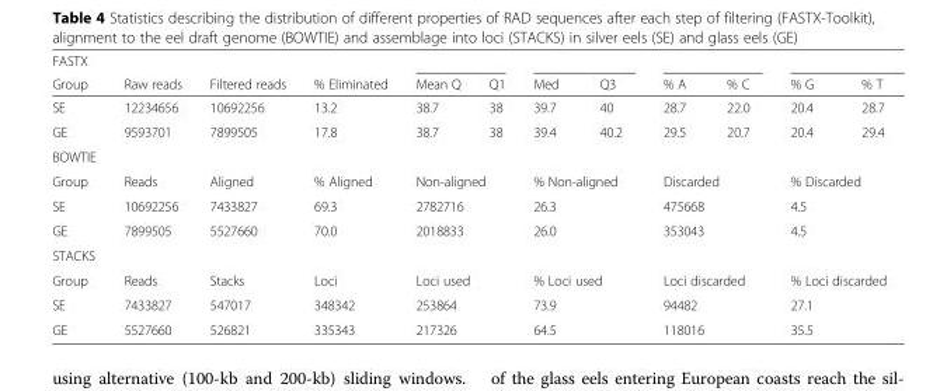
<table><thead><tr><td rowspan="2">FASTX Group</td><td rowspan="2">Raw reads</td><td rowspan="2">Filtered reads</td><td rowspan="2">% Eliminated</td><td rowspan="2">Mean Q</td><td rowspan="2">Q1</td><td rowspan="2">Med</td><td rowspan="2">Q3</td><td rowspan="2">% A</td><td rowspan="2">% C</td><td rowspan="2">% G</td><td rowspan="2">% T</td></tr><tr></tr></thead><tbody><tr><td>SE</td><td>12234656</td><td>10692256</td><td>13.2</td><td>38.7</td><td>38</td><td>39.7</td><td>40</td><td>28.7</td><td>22.0</td><td>20.4</td><td>28.7</td></tr><tr><td>GE</td><td>9593701</td><td>7899505</td><td>17.8</td><td>38.7</td><td>38</td><td>39.4</td><td>40.2</td><td>29.5</td><td>20.7</td><td>20.4</td><td>29.4</td></tr><tr><td colspan="12">BOWTIE</td></tr><tr><td>Group</td><td>Reads</td><td>Aligned</td><td>% Aligned</td><td colspan="2">Non-aligned</td><td colspan="2">% Non-aligned</td><td colspan="2">Discarded</td><td colspan="2">% Discarded</td></tr><tr><td>SE</td><td>10692256</td><td>7433827</td><td>69.3</td><td colspan="2">2782716</td><td colspan="2">26.3</td><td colspan="2">475668</td><td colspan="2">4.5</td></tr><tr><td>GE</td><td>7899505</td><td>5527660</td><td>70.0</td><td colspan="2">2018833</td><td colspan="2">26.0</td><td colspan="2">353043</td><td colspan="2">4.5</td></tr><tr><td colspan="12">STACKS</td></tr><tr><td>Group</td><td>Reads</td><td>Stacks</td><td>Loci</td><td colspan="2">Loci used</td><td colspan="2">% Loci used</td><td colspan="2">Loci discarded</td><td colspan="2">% Loci discarded</td></tr><tr><td>SE</td><td>7433827</td><td>547017</td><td>348342</td><td colspan="2">253864</td><td colspan="2">73.9</td><td colspan="2">94482</td><td colspan="2">27.1</td></tr><tr><td>GE</td><td>5527660</td><td>526821</td><td>335343</td><td colspan="2">217326</td><td colspan="2">64.5</td><td colspan="2">118016</td><td colspan="2">35.5</td></tr></tbody></table>